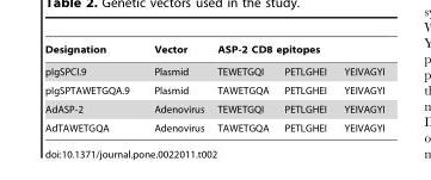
<table><thead><tr><td rowspan="2">Designation pIgSPCl.9</td><td rowspan="2">Vector Plasmid</td><td colspan="3">ASP-2 CD8 epitopes</td></tr><tr><td>TEWETGQI</td><td>PETLGHEI</td><td>YEIVAGYI</td></tr></thead><tbody><tr><td>pIgSPTAWETGQA.9</td><td>Plasmid</td><td>TAWETGQA</td><td>PETLGHEI</td><td>YEIVAGYI</td></tr><tr><td>AdASP-2</td><td>Adenovirus</td><td>TEWETGQI</td><td>PETLGHEI</td><td>YEIVAGYI</td></tr><tr><td>AdTAWETGQA</td><td>Adenovirus</td><td>TAWETGQA</td><td>PETLGHEI</td><td>YEIVAGYI</td></tr></tbody></table>